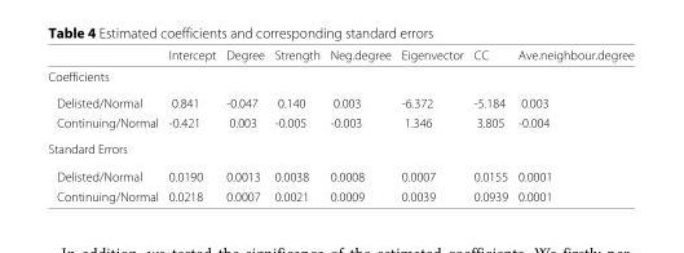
<table><thead><tr><td></td><td>Intercept</td><td>Degree</td><td>Strength</td><td>Neg.degree</td><td>Eigenvector</td><td>CC</td><td>Ave.neighbour.degree</td></tr></thead><tbody><tr><td colspan="8">Coefficients</td></tr><tr><td>Delisted/Normal</td><td>0.841</td><td>-0.047</td><td>0.140</td><td>0.003</td><td>-6.372</td><td>-5.184</td><td>0.003</td></tr><tr><td>Continuing/Normal</td><td>-0.421</td><td>0.003</td><td>-0.005</td><td>-0.003</td><td>1.346</td><td>3.805</td><td>-0.004</td></tr><tr><td colspan="8">Standard Errors</td></tr><tr><td>Delisted/Normal</td><td>0.0190</td><td>0.0013</td><td>0.0038</td><td>0.0008</td><td>0.0007</td><td>0.0155</td><td>0.0001</td></tr><tr><td>Continuing/Normal</td><td>0.0218</td><td>0.0007</td><td>0.0021</td><td>0.0009</td><td>0.0039</td><td>0.0939</td><td>0.0001</td></tr></tbody></table>